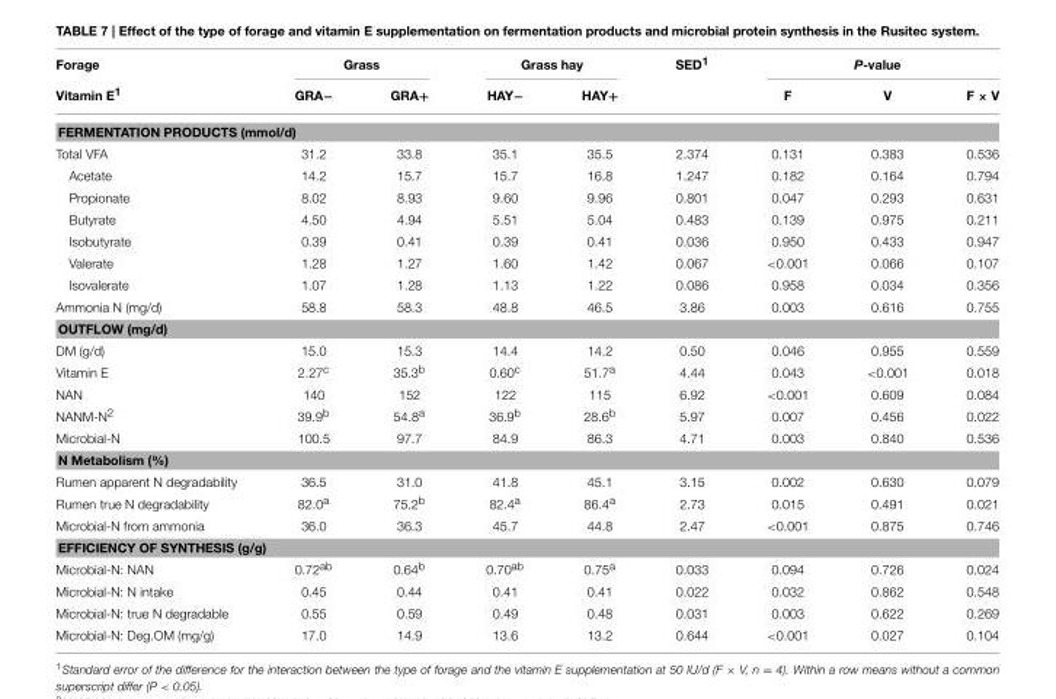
<table><thead><tr><td rowspan="2">Forage Vitamin E<sup>1</sup></td><td colspan="2">Grass</td><td colspan="2">Grass hay</td><td rowspan="2">SED<sup>1</sup></td><td colspan="3">P-value</td></tr><tr><td>GRA−</td><td>GRA+</td><td>HAY−</td><td>HAY+</td><td>F</td><td>V</td><td>F × V</td></tr></thead><tbody><tr><td colspan="9">FERMENTATION PRODUCTS (mmol/d)</td></tr><tr><td>Total VFA</td><td>31.2</td><td>33.8</td><td>35.1</td><td>35.5</td><td>2.374</td><td>0.131</td><td>0.383</td><td>0.536</td></tr><tr><td>Acetate</td><td>14.2</td><td>15.7</td><td>15.7</td><td>16.8</td><td>1.247</td><td>0.182</td><td>0.164</td><td>0.794</td></tr><tr><td>Propionate</td><td>8.02</td><td>8.93</td><td>9.60</td><td>9.96</td><td>0.801</td><td>0.047</td><td>0.293</td><td>0.631</td></tr><tr><td>Butyrate</td><td>4.50</td><td>4.94</td><td>5.51</td><td>5.04</td><td>0.483</td><td>0.139</td><td>0.975</td><td>0.211</td></tr><tr><td>Isobutyrate</td><td>0.39</td><td>0.41</td><td>0.39</td><td>0.41</td><td>0.036</td><td>0.950</td><td>0.433</td><td>0.947</td></tr><tr><td>Valerate</td><td>1.28</td><td>1.27</td><td>1.60</td><td>1.42</td><td>0.067</td><td>&lt;0.001</td><td>0.066</td><td>0.107</td></tr><tr><td>Isovalerate</td><td>1.07</td><td>1.28</td><td>1.13</td><td>1.22</td><td>0.086</td><td>0.958</td><td>0.034</td><td>0.356</td></tr><tr><td>Ammonia N (mg/d)</td><td>58.8</td><td>58.3</td><td>48.8</td><td>46.5</td><td>3.86</td><td>0.003</td><td>0.616</td><td>0.755</td></tr><tr><td colspan="9">OUTFLOW (mg/d)</td></tr><tr><td>DM (g/d)</td><td>15.0</td><td>15.3</td><td>14.4</td><td>14.2</td><td>0.50</td><td>0.046</td><td>0.955</td><td>0.559</td></tr><tr><td>Vitamin E</td><td>2.27<sup>c</sup></td><td>35.3<sup>b</sup></td><td>0.60<sup>c</sup></td><td>51.7<sup>a</sup></td><td>4.44</td><td>0.043</td><td>&lt;0.001</td><td>0.018</td></tr><tr><td>NAN</td><td>140</td><td>152</td><td>122</td><td>115</td><td>6.92</td><td>&lt;0.001</td><td>0.609</td><td>0.084</td></tr><tr><td>NANM-N<sup>2</sup></td><td>39.9<sup>b</sup></td><td>54.8<sup>a</sup></td><td>36.9<sup>b</sup></td><td>28.6<sup>b</sup></td><td>5.97</td><td>0.007</td><td>0.456</td><td>0.022</td></tr><tr><td>Microbial-N</td><td>100.5</td><td>97.7</td><td>84.9</td><td>86.3</td><td>4.71</td><td>0.003</td><td>0.840</td><td>0.536</td></tr><tr><td colspan="9">N Metabolism (%)</td></tr><tr><td>Rumen apparent N degradability</td><td>36.5</td><td>31.0</td><td>41.8</td><td>45.1</td><td>3.15</td><td>0.002</td><td>0.630</td><td>0.079</td></tr><tr><td>Rumen true N degradability</td><td>82.0<sup>a</sup></td><td>75.2<sup>b</sup></td><td>82.4<sup>a</sup></td><td>86.4<sup>a</sup></td><td>2.73</td><td>0.015</td><td>0.491</td><td>0.021</td></tr><tr><td>Microbial-N from ammonia</td><td>36.0</td><td>36.3</td><td>45.7</td><td>44.8</td><td>2.47</td><td>&lt;0.001</td><td>0.875</td><td>0.746</td></tr><tr><td colspan="9">EFFICIENCY OF SYNTHESIS (g/g)</td></tr><tr><td>Microbial-N: NAN</td><td>0.72<sup>ab</sup></td><td>0.64<sup>b</sup></td><td>0.70<sup>ab</sup></td><td>0.75<sup>a</sup></td><td>0.033</td><td>0.094</td><td>0.726</td><td>0.024</td></tr><tr><td>Microbial-N: N intake</td><td>0.45</td><td>0.44</td><td>0.41</td><td>0.41</td><td>0.022</td><td>0.032</td><td>0.862</td><td>0.548</td></tr><tr><td>Microbial-N: true N degradable</td><td>0.55</td><td>0.59</td><td>0.49</td><td>0.48</td><td>0.031</td><td>0.003</td><td>0.622</td><td>0.269</td></tr><tr><td>Microbial-N: Deg.OM (mg/g)</td><td>17.0</td><td>14.9</td><td>13.6</td><td>13.2</td><td>0.644</td><td>&lt;0.001</td><td>0.027</td><td>0.104</td></tr></tbody></table>